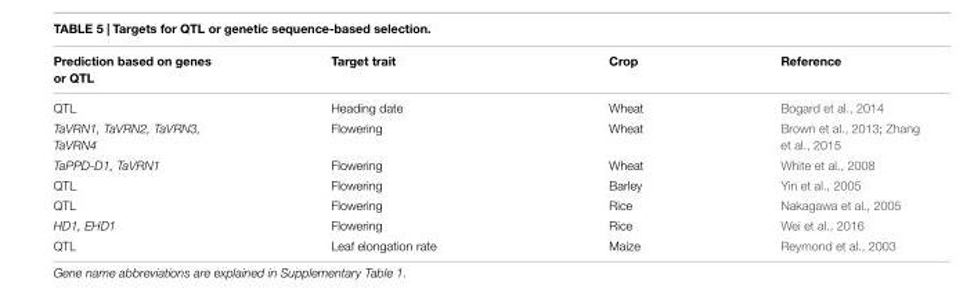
<table><thead><tr><td>Prediction based on genes or QTL</td><td>Target trait</td><td>Crop</td><td>Reference</td></tr></thead><tbody><tr><td>QTL</td><td>Heading date</td><td>Wheat</td><td>Bogard et al., 2014</td></tr><tr><td>TaVRN1, TaVRN2, TaVRN3, TaVRN4</td><td>Flowering</td><td>Wheat</td><td>Brown et al., 2013; Zhang et al., 2015</td></tr><tr><td>TaPPD-D1, TaVRN1</td><td>Flowering</td><td>Wheat</td><td>White et al., 2008</td></tr><tr><td>QTL</td><td>Flowering</td><td>Barley</td><td>Yin et al., 2005</td></tr><tr><td>QTL</td><td>Flowering</td><td>Rice</td><td>Nakagawa et al., 2005</td></tr><tr><td>HD1, EHD1</td><td>Flowering</td><td>Rice</td><td>Wei et al., 2016</td></tr><tr><td>QTL</td><td>Leaf elongation rate</td><td>Maize</td><td>Reymond et al., 2003</td></tr></tbody></table>